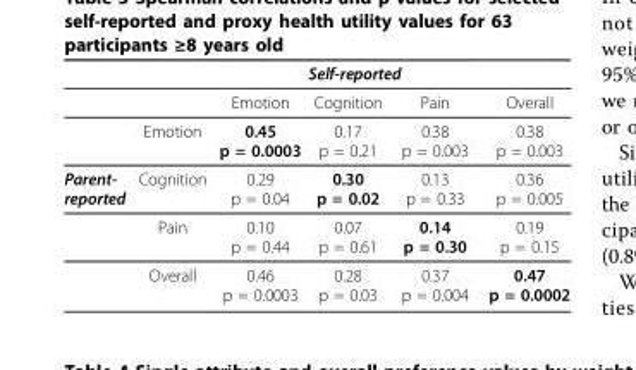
<table><thead><tr><td rowspan="2"></td><td colspan="5">Self-reported</td></tr><tr><td></td><td>Emotion</td><td>Cognition</td><td>Pain</td><td>Overall</td></tr></thead><tbody><tr><td></td><td>Emotion</td><td>0.45 p = 0.0003</td><td>0.17 p = 0.21</td><td>0.38 p = 0.003</td><td>0.38 p = 0.003</td></tr><tr><td rowspan="3">Parent- reported</td><td>Cognition</td><td>0.29 p = 0.04</td><td>0.30 p = 0.02</td><td>0.13 p = 0.33</td><td>0.36 p = 0.005</td></tr><tr><td>Pain</td><td>0.10 p = 0.44</td><td>0.07 p = 0.61</td><td>0.14 p = 0.30</td><td>0.19 p = 0.15</td></tr><tr><td>Overall</td><td>0.46 p = 0.0003</td><td>0.28 p = 0.03</td><td>0.37 p = 0.004</td><td>0.47 p = 0.0002</td></tr></tbody></table>